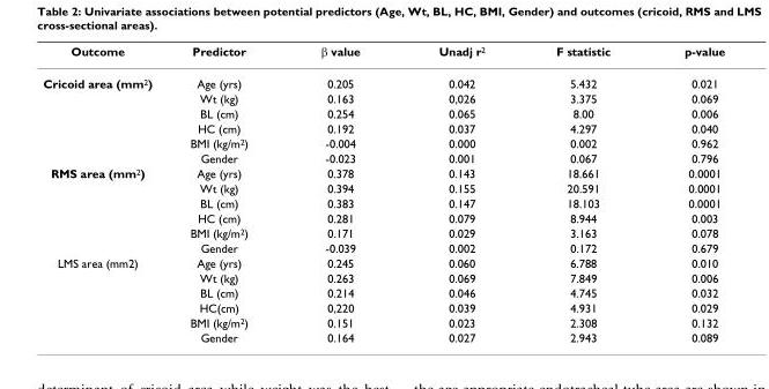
<table><thead><tr><td>Outcome</td><td>Predictor</td><td>β value</td><td>Unadj r2</td><td>F statistic</td><td>p-value</td></tr></thead><tbody><tr><td rowspan="6">Cricoid area (mm2)</td><td>Age (yrs)</td><td>0.205</td><td>0.042</td><td>5.432</td><td>0.021</td></tr><tr><td>Wt (kg)</td><td>0.163</td><td>0,026</td><td>3.375</td><td>0.069</td></tr><tr><td>BL (cm)</td><td>0.254</td><td>0.065</td><td>8.00</td><td>0.006</td></tr><tr><td>HC (cm)</td><td>0.192</td><td>0.037</td><td>4.297</td><td>0.040</td></tr><tr><td>BMI (kg/m2)</td><td>-0.004</td><td>0.000</td><td>0.002</td><td>0.962</td></tr><tr><td>Gender</td><td>-0.023</td><td>0.001</td><td>0.067</td><td>0.796</td></tr><tr><td rowspan="6">RMS area (mm2)</td><td>Age (yrs)</td><td>0.378</td><td>0.143</td><td>18.661</td><td>0.0001</td></tr><tr><td>Wt (kg)</td><td>0.394</td><td>0.155</td><td>20.591</td><td>0.0001</td></tr><tr><td>BL (cm)</td><td>0.383</td><td>0.147</td><td>18.103</td><td>0.0001</td></tr><tr><td>HC (cm)</td><td>0.281</td><td>0.079</td><td>8.944</td><td>0.003</td></tr><tr><td>BMI (kg/m2)</td><td>0.171</td><td>0.029</td><td>3.163</td><td>0.078</td></tr><tr><td>Gender</td><td>-0.039</td><td>0.002</td><td>0.172</td><td>0.679</td></tr><tr><td rowspan="6">LMS area (mm2)</td><td>Age (yrs)</td><td>0.245</td><td>0.060</td><td>6.788</td><td>0.010</td></tr><tr><td>Wt (kg)</td><td>0.263</td><td>0.069</td><td>7.849</td><td>0.006</td></tr><tr><td>BL (cm)</td><td>0.214</td><td>0.046</td><td>4.745</td><td>0.032</td></tr><tr><td>HC(cm)</td><td>0,220</td><td>0.039</td><td>4.931</td><td>0.029</td></tr><tr><td>BMI (kg/m2)</td><td>0.151</td><td>0.023</td><td>2.308</td><td>0.132</td></tr><tr><td>Gender</td><td>0.164</td><td>0.027</td><td>2.943</td><td>0.089</td></tr></tbody></table>